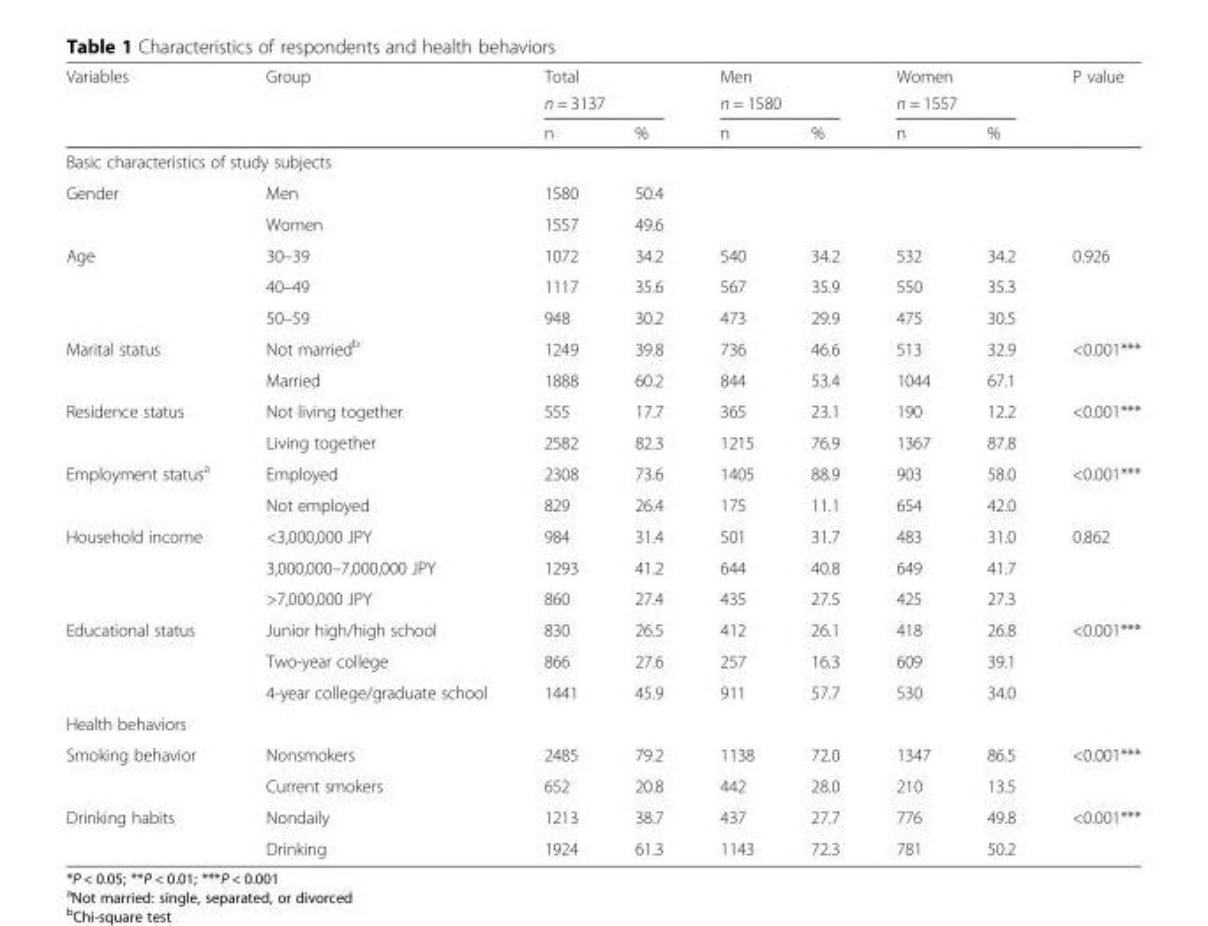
<table><thead><tr><td rowspan="3">Variables</td><td rowspan="3">Group</td><td rowspan="2" colspan="2">Total n = 3137</td><td rowspan="2" colspan="2">Men n = 1580</td><td rowspan="2" colspan="2">Women n = 1557</td><td rowspan="3">P value</td></tr><tr></tr><tr><td>n</td><td>%</td><td>n</td><td>%</td><td>n</td><td>%</td></tr></thead><tbody><tr><td colspan="9">Basic characteristics of study subjects</td></tr><tr><td rowspan="2">Gender</td><td>Men</td><td>1580</td><td>50.4</td><td></td><td></td><td></td><td></td><td></td></tr><tr><td>Women</td><td>1557</td><td>49.6</td><td></td><td></td><td></td><td></td><td></td></tr><tr><td rowspan="3">Age</td><td>30–39</td><td>1072</td><td>34.2</td><td>540</td><td>34.2</td><td>532</td><td>34.2</td><td>0.926</td></tr><tr><td>40–49</td><td>1117</td><td>35.6</td><td>567</td><td>35.9</td><td>550</td><td>35.3</td><td></td></tr><tr><td>50–59</td><td>948</td><td>30.2</td><td>473</td><td>29.9</td><td>475</td><td>30.5</td><td></td></tr><tr><td rowspan="2">Marital status</td><td>Not married<sup>b</sup></td><td>1249</td><td>39.8</td><td>736</td><td>46.6</td><td>513</td><td>32.9</td><td>&lt;0.001***</td></tr><tr><td>Married</td><td>1888</td><td>60.2</td><td>844</td><td>53.4</td><td>1044</td><td>67.1</td><td></td></tr><tr><td rowspan="2">Residence status</td><td>Not living together</td><td>555</td><td>17.7</td><td>365</td><td>23.1</td><td>190</td><td>12.2</td><td>&lt;0.001***</td></tr><tr><td>Living together</td><td>2582</td><td>82.3</td><td>1215</td><td>76.9</td><td>1367</td><td>87.8</td><td></td></tr><tr><td rowspan="2">Employment status<sup>a</sup></td><td>Employed</td><td>2308</td><td>73.6</td><td>1405</td><td>88.9</td><td>903</td><td>58.0</td><td>&lt;0.001***</td></tr><tr><td>Not employed</td><td>829</td><td>26.4</td><td>175</td><td>11.1</td><td>654</td><td>42.0</td><td></td></tr><tr><td rowspan="3">Household income</td><td>&lt;3,000,000 JPY</td><td>984</td><td>31.4</td><td>501</td><td>31.7</td><td>483</td><td>31.0</td><td>0.862</td></tr><tr><td>3,000,000–7,000,000 JPY</td><td>1293</td><td>41.2</td><td>644</td><td>40.8</td><td>649</td><td>41.7</td><td></td></tr><tr><td>&gt;7,000,000 JPY</td><td>860</td><td>27.4</td><td>435</td><td>27.5</td><td>425</td><td>27.3</td><td></td></tr><tr><td rowspan="3">Educational status</td><td>Junior high/high school</td><td>830</td><td>26.5</td><td>412</td><td>26.1</td><td>418</td><td>26.8</td><td>&lt;0.001***</td></tr><tr><td>Two-year college</td><td>866</td><td>27.6</td><td>257</td><td>16.3</td><td>609</td><td>39.1</td><td></td></tr><tr><td>4-year college/graduate school</td><td>1441</td><td>45.9</td><td>911</td><td>57.7</td><td>530</td><td>34.0</td><td></td></tr><tr><td colspan="9">Health behaviors</td></tr><tr><td rowspan="2">Smoking behavior</td><td>Nonsmokers</td><td>2485</td><td>79.2</td><td>1138</td><td>72.0</td><td>1347</td><td>86.5</td><td>&lt;0.001***</td></tr><tr><td>Current smokers</td><td>652</td><td>20.8</td><td>442</td><td>28.0</td><td>210</td><td>13.5</td><td></td></tr><tr><td rowspan="2">Drinking habits</td><td>Nondaily</td><td>1213</td><td>38.7</td><td>437</td><td>27.7</td><td>776</td><td>49.8</td><td>&lt;0.001***</td></tr><tr><td>Drinking</td><td>1924</td><td>61.3</td><td>1143</td><td>72.3</td><td>781</td><td>50.2</td><td></td></tr></tbody></table>